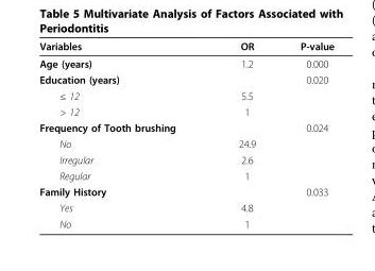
<table><thead><tr><td>Variables</td><td>OR</td><td>P-value</td></tr></thead><tbody><tr><td>Age (years)</td><td>1.2</td><td>0.000</td></tr><tr><td>Education (years)</td><td></td><td>0.020</td></tr><tr><td>≤ 12</td><td>5.5</td><td></td></tr><tr><td>&gt; 12</td><td>1</td><td></td></tr><tr><td>Frequency of Tooth brushing</td><td></td><td>0.024</td></tr><tr><td>No</td><td>24.9</td><td></td></tr><tr><td>Irregular</td><td>2.6</td><td></td></tr><tr><td>Regular</td><td>1</td><td></td></tr><tr><td>Family History</td><td></td><td>0.033</td></tr><tr><td>Yes</td><td>4.8</td><td></td></tr><tr><td>No</td><td>1</td><td></td></tr></tbody></table>